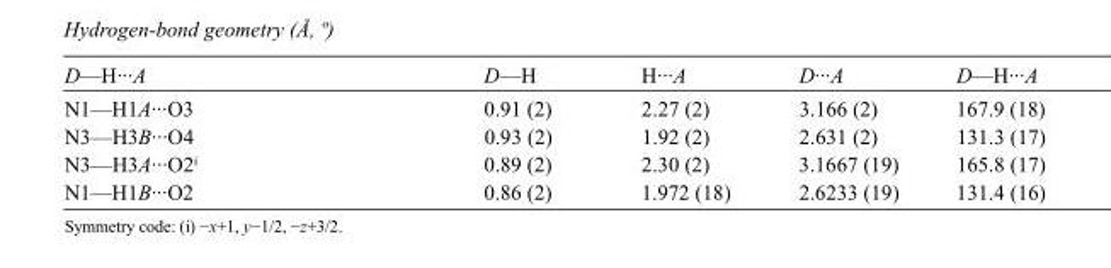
<table><tbody><tr><td>D—H···A</td><td>D—H</td><td>H···A</td><td>D···A</td><td>D—H···A</td></tr><tr><td>N1—H1A···O3</td><td>0.91 (2)</td><td>2.27 (2)</td><td>3.166 (2)</td><td>167.9 (18)</td></tr><tr><td>N3—H3B···O4</td><td>0.93 (2)</td><td>1.92 (2)</td><td>2.631 (2)</td><td>131.3 (17)</td></tr><tr><td>N3—H3A···O2<sup>i</sup></td><td>0.89 (2)</td><td>2.30 (2)</td><td>3.1667 (19)</td><td>165.8 (17)</td></tr><tr><td>N1—H1B···O2</td><td>0.86 (2)</td><td>1.972 (18)</td><td>2.6233 (19)</td><td>131.4 (16)</td></tr></tbody></table>